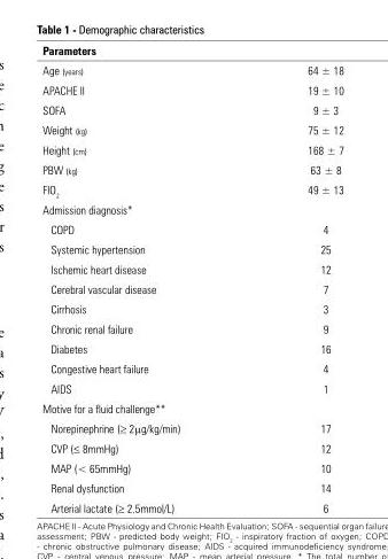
<table><thead><tr><td>Parameters</td><td></td></tr></thead><tbody><tr><td>Age (years)</td><td>64 ± 18</td></tr><tr><td>APACHE II</td><td>19 ± 10</td></tr><tr><td>SOFA</td><td>9 ± 3</td></tr><tr><td>Weight (kg)</td><td>75 ± 12</td></tr><tr><td>Height (cm)</td><td>168 ± 7</td></tr><tr><td>PBW (kg)</td><td>63 ± 8</td></tr><tr><td>FIO<sub>2</sub></td><td>49 ± 13</td></tr><tr><td colspan="2">Admission diagnosis*</td></tr><tr><td>COPD</td><td>4</td></tr><tr><td>Systemic hypertension</td><td>25</td></tr><tr><td>Ischemic heart disease</td><td>12</td></tr><tr><td>Cerebral vascular disease</td><td>7</td></tr><tr><td>Cirrhosis</td><td>3</td></tr><tr><td>Chronic renal failure</td><td>9</td></tr><tr><td>Diabetes</td><td>16</td></tr><tr><td>Congestive heart failure</td><td>4</td></tr><tr><td>AIDS</td><td>1</td></tr><tr><td colspan="2">Motive for a fluid challenge**</td></tr><tr><td>Norepinephrine (≥ 2µg/kg/min)</td><td>17</td></tr><tr><td>CVP (≤ 8mmHg)</td><td>12</td></tr><tr><td>MAP (&lt; 65mmHg)</td><td>10</td></tr><tr><td>Renal dysfunction</td><td>14</td></tr><tr><td>Arterial lactate (≥ 2.5mmol/L)</td><td>6</td></tr></tbody></table>